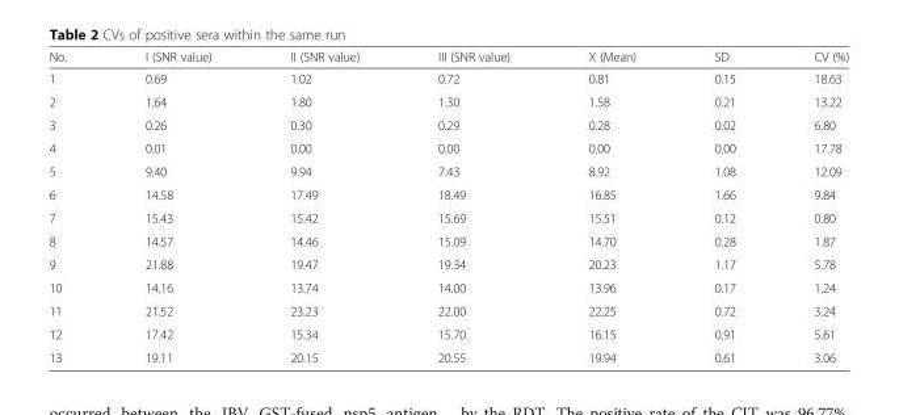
<table><thead><tr><td>No.</td><td>I (SNR value)</td><td>II (SNR value)</td><td>III (SNR value)</td><td>X (Mean)</td><td>SD</td><td>CV (%)</td></tr></thead><tbody><tr><td>1</td><td>0.69</td><td>1.02</td><td>0.72</td><td>0.81</td><td>0.15</td><td>18.63</td></tr><tr><td>2</td><td>1.64</td><td>1.80</td><td>1.30</td><td>1.58</td><td>0.21</td><td>13.22</td></tr><tr><td>3</td><td>0.26</td><td>0.30</td><td>0.29</td><td>0.28</td><td>0.02</td><td>6.80</td></tr><tr><td>4</td><td>0.01</td><td>0.00</td><td>0.00</td><td>0.00</td><td>0.00</td><td>17.78</td></tr><tr><td>5</td><td>9.40</td><td>9.94</td><td>7.43</td><td>8.92</td><td>1.08</td><td>12.09</td></tr><tr><td>6</td><td>14.58</td><td>17.49</td><td>18.49</td><td>16.85</td><td>1.66</td><td>9.84</td></tr><tr><td>7</td><td>15.43</td><td>15.42</td><td>15.69</td><td>15.51</td><td>0.12</td><td>0.80</td></tr><tr><td>8</td><td>14.57</td><td>14.46</td><td>15.09</td><td>14.70</td><td>0.28</td><td>1.87</td></tr><tr><td>9</td><td>21.88</td><td>19.47</td><td>19.34</td><td>20.23</td><td>1.17</td><td>5.78</td></tr><tr><td>10</td><td>14.16</td><td>13.74</td><td>14.00</td><td>13.96</td><td>0.17</td><td>1.24</td></tr><tr><td>11</td><td>21.52</td><td>23.23</td><td>22.00</td><td>22.25</td><td>0.72</td><td>3.24</td></tr><tr><td>12</td><td>17.42</td><td>15.34</td><td>15.70</td><td>16.15</td><td>0.91</td><td>5.61</td></tr><tr><td>13</td><td>19.11</td><td>20.15</td><td>20.55</td><td>19.94</td><td>0.61</td><td>3.06</td></tr></tbody></table>